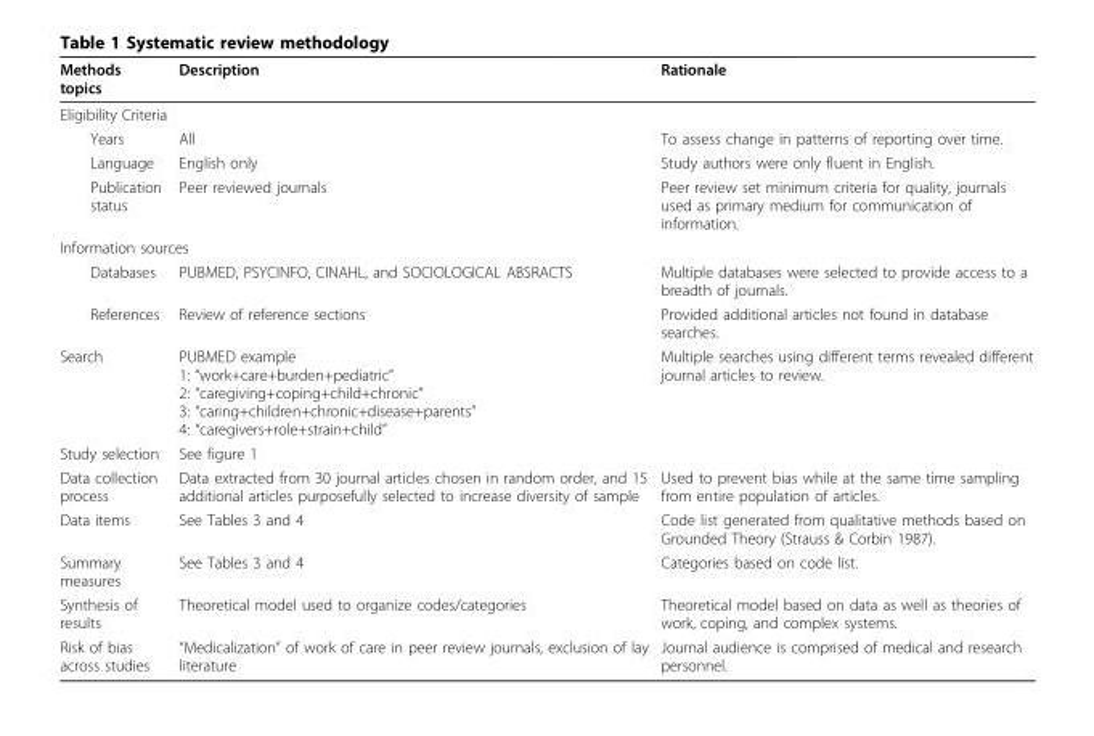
<table><thead><tr><td>Methods topics</td><td>Description</td><td>Rationale</td></tr></thead><tbody><tr><td colspan="3">Eligibility Criteria</td></tr><tr><td>Years</td><td>All</td><td>To assess change in patterns of reporting over time.</td></tr><tr><td>Language</td><td>English only</td><td>Study authors were only fluent in English.</td></tr><tr><td>Publication status</td><td>Peer reviewed journals</td><td>Peer review set minimum criteria for quality, journals used as primary medium for communication of information.</td></tr><tr><td colspan="3">Information sources</td></tr><tr><td>Databases</td><td>PUBMED, PSYCINFO, CINAHL, and SOCIOLOGICAL ABSRACTS</td><td>Multiple databases were selected to provide access to a breadth of journals.</td></tr><tr><td>References</td><td>Review of reference sections</td><td>Provided additional articles not found in database searches.</td></tr><tr><td>Search</td><td>PUBMED example 1: “work+care+burden+pediatric” 2: “caregiving+coping+child+chronic” 3: “caring+children+chronic+disease+parents” 4: “caregivers+role+strain+child”</td><td>Multiple searches using different terms revealed different journal articles to review.</td></tr><tr><td>Study selection</td><td>See figure 1</td><td></td></tr><tr><td>Data collection process</td><td>Data extracted from 30 journal articles chosen in random order, and 15 additional articles purposefully selected to increase diversity of sample</td><td>Used to prevent bias while at the same time sampling from entire population of articles.</td></tr><tr><td>Data items</td><td>See Tables 3 and 4</td><td>Code list generated from qualitative methods based on Grounded Theory (Strauss &amp; Corbin 1987).</td></tr><tr><td>Summary measures</td><td>See Tables 3 and 4</td><td>Categories based on code list.</td></tr><tr><td>Synthesis of results</td><td>Theoretical model used to organize codes/categories</td><td>Theoretical model based on data as well as theories of work, coping, and complex systems.</td></tr><tr><td>Risk of bias across studies</td><td>“Medicalization” of work of care in peer review journals, exclusion of lay literature</td><td>Journal audience is comprised of medical and research personnel.</td></tr></tbody></table>